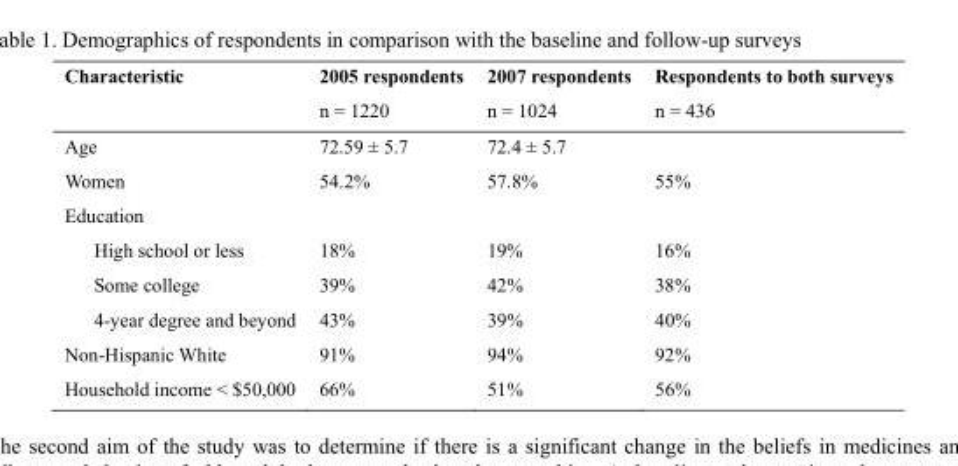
<table><thead><tr><td>Characteristic</td><td>2005 respondents</td><td>2007 respondents</td><td>Respondents to both surveys</td></tr></thead><tbody><tr><td></td><td>n = 1220</td><td>n = 1024</td><td>n = 436</td></tr><tr><td>Age</td><td>72.59 ± 5.7</td><td>72.4 ± 5.7</td><td></td></tr><tr><td>Women</td><td>54.2%</td><td>57.8%</td><td>55%</td></tr><tr><td colspan="4">Education</td></tr><tr><td>High school or less</td><td>18%</td><td>19%</td><td>16%</td></tr><tr><td>Some college</td><td>39%</td><td>42%</td><td>38%</td></tr><tr><td>4-year degree and beyond</td><td>43%</td><td>39%</td><td>40%</td></tr><tr><td>Non-Hispanic White</td><td>91%</td><td>94%</td><td>92%</td></tr><tr><td>Household income &lt; $50,000</td><td>66%</td><td>51%</td><td>56%</td></tr></tbody></table>